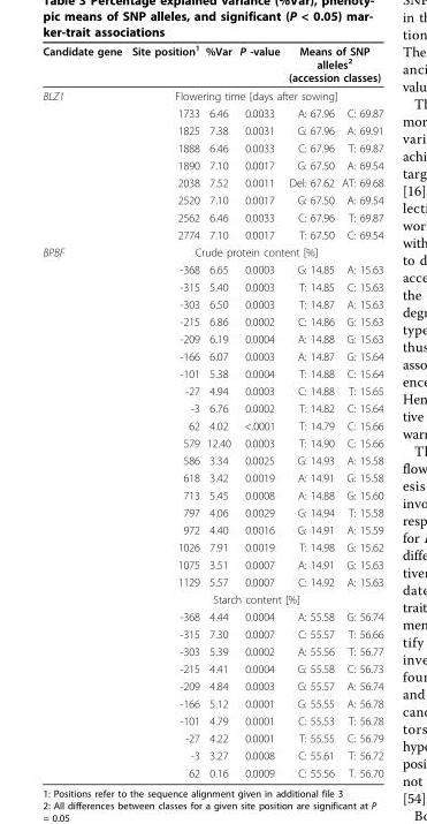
<table><thead><tr><td rowspan="3">Candidate gene BLZ1</td><td>Site position<sup>1</sup></td><td>%Var</td><td>P -value</td><td colspan="2">Means of SNP alleles<sup>2</sup> (accession classes)</td></tr><tr><td colspan="5">Flowering time [days after sowing]</td></tr><tr><td>1733</td><td>6.46</td><td>0.0033</td><td>A: 67.96</td><td>C: 69.87</td></tr></thead><tbody><tr><td></td><td>1825</td><td>7.38</td><td>0.0031</td><td>G: 67.96</td><td>A: 69.91</td></tr><tr><td></td><td>1888</td><td>6.46</td><td>0.0033</td><td>C: 67.96</td><td>T: 69.87</td></tr><tr><td></td><td>1890</td><td>7.10</td><td>0.0017</td><td>G: 67.50</td><td>A: 69.54</td></tr><tr><td></td><td>2038</td><td>7.52</td><td>0.0011</td><td>Del: 67.62</td><td>AT: 69.68</td></tr><tr><td></td><td>2520</td><td>7.10</td><td>0.0017</td><td>G: 67.50</td><td>A: 69.54</td></tr><tr><td></td><td>2562</td><td>6.46</td><td>0.0033</td><td>C: 67.96</td><td>T: 69.87</td></tr><tr><td></td><td>2774</td><td>7.10</td><td>0.0017</td><td>T: 67.50</td><td>C: 69.54</td></tr><tr><td rowspan="31">BPBF</td><td colspan="5">Crude protein content [%]</td></tr><tr><td>-368</td><td>6.65</td><td>0.0003</td><td>G: 14.85</td><td>A: 15.63</td></tr><tr><td>-315</td><td>5.40</td><td>0.0003</td><td>T: 14.85</td><td>C: 15.63</td></tr><tr><td>-303</td><td>6.50</td><td>0.0003</td><td>T: 14.87</td><td>A: 15.63</td></tr><tr><td>-215</td><td>6.86</td><td>0.0002</td><td>C: 14.86</td><td>G: 15.63</td></tr><tr><td>-209</td><td>6.19</td><td>0.0004</td><td>A: 14.88</td><td>G: 15.63</td></tr><tr><td>-166</td><td>6.07</td><td>0.0003</td><td>A: 14.87</td><td>G: 15.64</td></tr><tr><td>-101</td><td>5.38</td><td>0.0004</td><td>T: 14.88</td><td>C: 15.64</td></tr><tr><td>-27</td><td>4.94</td><td>0.0003</td><td>C: 14.88</td><td>T: 15.65</td></tr><tr><td>-3</td><td>6.76</td><td>0.0002</td><td>T: 14.82</td><td>C: 15.64</td></tr><tr><td>62</td><td>4.02</td><td>&lt;.0001</td><td>T: 14.79</td><td>C: 15.66</td></tr><tr><td>579</td><td>12.40</td><td>0.0003</td><td>T: 14.90</td><td>C: 15.66</td></tr><tr><td>586</td><td>3.34</td><td>0.0025</td><td>G: 14.93</td><td>A: 15.58</td></tr><tr><td>618</td><td>3.42</td><td>0.0019</td><td>A: 14.91</td><td>G: 15.58</td></tr><tr><td>713</td><td>5.45</td><td>0.0008</td><td>A: 14.88</td><td>G: 15.60</td></tr><tr><td>797</td><td>4.06</td><td>0.0029</td><td>G: 14.94</td><td>T: 15.58</td></tr><tr><td>972</td><td>4.40</td><td>0.0016</td><td>G: 14.91</td><td>A: 15.59</td></tr><tr><td>1026</td><td>7.91</td><td>0.0019</td><td>T: 14.98</td><td>G: 15.62</td></tr><tr><td>1075</td><td>3.51</td><td>0.0007</td><td>A: 14.91</td><td>G: 15.63</td></tr><tr><td>1129</td><td>5.57</td><td>0.0007</td><td>C: 14.92</td><td>A: 15.63</td></tr><tr><td colspan="5">Starch content [%]</td></tr><tr><td>-368</td><td>4.44</td><td>0.0004</td><td>A: 55.58</td><td>G: 56.74</td></tr><tr><td>-315</td><td>7.30</td><td>0.0007</td><td>C: 55.57</td><td>T: 56.66</td></tr><tr><td>-303</td><td>5.39</td><td>0.0002</td><td>A: 55.56</td><td>T: 56.77</td></tr><tr><td>-215</td><td>4.41</td><td>0.0004</td><td>G: 55.58</td><td>C: 56.73</td></tr><tr><td>-209</td><td>4.84</td><td>0.0003</td><td>G: 55.57</td><td>A: 56.74</td></tr><tr><td>-166</td><td>5.12</td><td>0.0001</td><td>G: 55.55</td><td>A: 56.78</td></tr><tr><td>-101</td><td>4.79</td><td>0.0001</td><td>C: 55.53</td><td>T: 56.78</td></tr><tr><td>-27</td><td>4.22</td><td>0.0001</td><td>T: 55.55</td><td>C: 56.79</td></tr><tr><td>-3</td><td>3.27</td><td>0.0008</td><td>C: 55.61</td><td>T: 56.72</td></tr><tr><td>62</td><td>0.16</td><td>0.0009</td><td>C: 55.56</td><td>T. 56.70</td></tr></tbody></table>